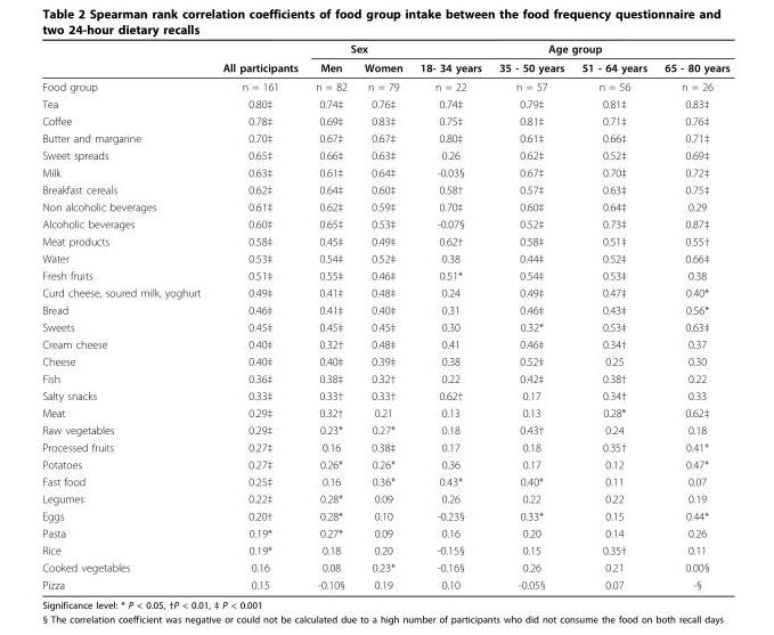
<table><thead><tr><td rowspan="2"></td><td rowspan="2">All participants</td><td colspan="2">Sex</td><td colspan="4">Age group</td></tr><tr><td>Men</td><td>Women</td><td>18- 34 years</td><td>35 - 50 years</td><td>51 - 64 years</td><td>65 - 80 years</td></tr></thead><tbody><tr><td>Food group</td><td>n = 161</td><td>n = 82</td><td>n = 79</td><td>n = 22</td><td>n = 57</td><td>n = 56</td><td>n = 26</td></tr><tr><td>Tea</td><td>0.80‡</td><td>0.74‡</td><td>0.76‡</td><td>0.74‡</td><td>0.79‡</td><td>0.81‡</td><td>0.83‡</td></tr><tr><td>Coffee</td><td>0.78‡</td><td>0.69‡</td><td>0.83‡</td><td>0.75‡</td><td>0.81‡</td><td>0.71‡</td><td>0.76‡</td></tr><tr><td>Butter and margarine</td><td>0.70‡</td><td>0.67‡</td><td>0.67‡</td><td>0.80‡</td><td>0.61‡</td><td>0.66‡</td><td>0.71‡</td></tr><tr><td>Sweet spreads</td><td>0.65‡</td><td>0.66‡</td><td>0.63‡</td><td>0.26</td><td>0.62‡</td><td>0.52‡</td><td>0.69‡</td></tr><tr><td>Milk</td><td>0.63‡</td><td>0.61‡</td><td>0.64‡</td><td>-0.03§</td><td>0.67‡</td><td>0.70‡</td><td>0.72‡</td></tr><tr><td>Breakfast cereals</td><td>0.62‡</td><td>0.64‡</td><td>0.60‡</td><td>0.58†</td><td>0.57‡</td><td>0.63‡</td><td>0.75‡</td></tr><tr><td>Non alcoholic beverages</td><td>0.61‡</td><td>0.62‡</td><td>0.59‡</td><td>0.70‡</td><td>0.60‡</td><td>0.64‡</td><td>0.29</td></tr><tr><td>Alcoholic beverages</td><td>0.60‡</td><td>0.65‡</td><td>0.53‡</td><td>-0.07§</td><td>0.52‡</td><td>0.73‡</td><td>0.87‡</td></tr><tr><td>Meat products</td><td>0.58‡</td><td>0.45‡</td><td>0.49‡</td><td>0.62†</td><td>0.58‡</td><td>0.51‡</td><td>0.55†</td></tr><tr><td>Water</td><td>0.53‡</td><td>0.54‡</td><td>0.52‡</td><td>0.38</td><td>0.44‡</td><td>0.52‡</td><td>0.66‡</td></tr><tr><td>Fresh fruits</td><td>0.51‡</td><td>0.55‡</td><td>0.46‡</td><td>0.51*</td><td>0.54‡</td><td>0.53‡</td><td>0.38</td></tr><tr><td>Curd cheese, soured milk, yoghurt</td><td>0.49‡</td><td>0.41‡</td><td>0.48‡</td><td>0.24</td><td>0.49‡</td><td>0.47‡</td><td>0.40*</td></tr><tr><td>Bread</td><td>0.46‡</td><td>0.41‡</td><td>0.40‡</td><td>0.31</td><td>0.46‡</td><td>0.43‡</td><td>0.56*</td></tr><tr><td>Sweets</td><td>0.45‡</td><td>0.45‡</td><td>0.45‡</td><td>0.30</td><td>0.32*</td><td>0.53‡</td><td>0.63‡</td></tr><tr><td>Cream cheese</td><td>0.40‡</td><td>0.32†</td><td>0.48‡</td><td>0.41</td><td>0.46‡</td><td>0.34†</td><td>0.37</td></tr><tr><td>Cheese</td><td>0.40‡</td><td>0.40‡</td><td>0.39‡</td><td>0.38</td><td>0.52‡</td><td>0.25</td><td>0.30</td></tr><tr><td>Fish</td><td>0.36‡</td><td>0.38‡</td><td>0.32†</td><td>0.22</td><td>0.42‡</td><td>0.38†</td><td>0.22</td></tr><tr><td>Salty snacks</td><td>0.33‡</td><td>0.33†</td><td>0.33†</td><td>0.62†</td><td>0.17</td><td>0.34†</td><td>0.33</td></tr><tr><td>Meat</td><td>0.29‡</td><td>0.32†</td><td>0.21</td><td>0.13</td><td>0.13</td><td>0.28*</td><td>0.62‡</td></tr><tr><td>Raw vegetables</td><td>0.29‡</td><td>0.23*</td><td>0.27*</td><td>0.18</td><td>0.43†</td><td>0.24</td><td>0.18</td></tr><tr><td>Processed fruits</td><td>0.27‡</td><td>0.16</td><td>0.38‡</td><td>0.17</td><td>0.18</td><td>0.35†</td><td>0.41*</td></tr><tr><td>Potatoes</td><td>0.27‡</td><td>0.26*</td><td>0.26*</td><td>0.36</td><td>0.17</td><td>0.12</td><td>0.47*</td></tr><tr><td>Fast food</td><td>0.25‡</td><td>0.16</td><td>0.36*</td><td>0.43*</td><td>0.40*</td><td>0.11</td><td>0.07</td></tr><tr><td>Legumes</td><td>0.22‡</td><td>0.28*</td><td>0.09</td><td>0.26</td><td>0.22</td><td>0.22</td><td>0.19</td></tr><tr><td>Eggs</td><td>0.20†</td><td>0.28*</td><td>0.10</td><td>-0.23§</td><td>0.33*</td><td>0.15</td><td>0.44*</td></tr><tr><td>Pasta</td><td>0.19*</td><td>0.27*</td><td>0.09</td><td>0.16</td><td>0.20</td><td>0.14</td><td>0.26</td></tr><tr><td>Rice</td><td>0.19*</td><td>0.18</td><td>0.20</td><td>-0.15§</td><td>0.15</td><td>0.35†</td><td>0.11</td></tr><tr><td>Cooked vegetables</td><td>0.16</td><td>0.08</td><td>0.23*</td><td>-0.16§</td><td>0.26</td><td>0.21</td><td>0.00§</td></tr><tr><td>Pizza</td><td>0.15</td><td>-0.10§</td><td>0.19</td><td>0.10</td><td>-0.05§</td><td>0.07</td><td>-§</td></tr></tbody></table>